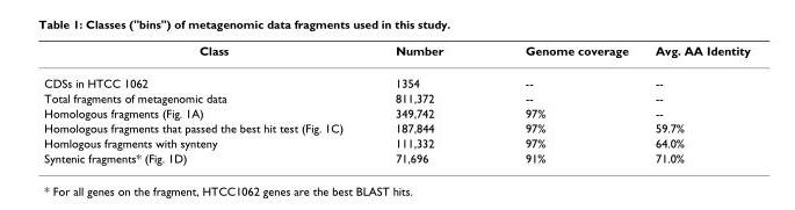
<table><thead><tr><td>Class</td><td>Number</td><td>Genome coverage</td><td>Avg. AA Identity</td></tr></thead><tbody><tr><td>CDSs in HTCC 1062</td><td>1354</td><td>--</td><td>--</td></tr><tr><td>Total fragments of metagenomic data</td><td>811,372</td><td>--</td><td>--</td></tr><tr><td>Homologous fragments (Fig. 1A)</td><td>349,742</td><td>97%</td><td>--</td></tr><tr><td>Homologous fragments that passed the best hit test (Fig. 1C)</td><td>187,844</td><td>97%</td><td>59.7%</td></tr><tr><td>Homlogous fragments with synteny</td><td>111,332</td><td>97%</td><td>64.0%</td></tr><tr><td>Syntenic fragments* (Fig. 1D)</td><td>71,696</td><td>91%</td><td>71.0%</td></tr></tbody></table>